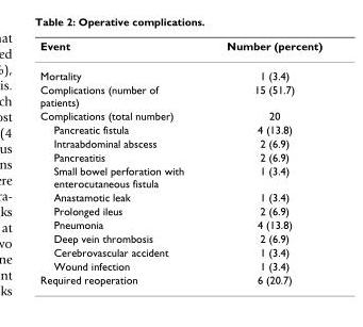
<table><thead><tr><td>Event</td><td>Number (percent)</td></tr></thead><tbody><tr><td>Mortality</td><td>1 (3.4)</td></tr><tr><td>Complications (number of patients)</td><td>15 (51.7)</td></tr><tr><td>Complications (total number)</td><td>20</td></tr><tr><td>Pancreatic fistula</td><td>4 (13.8)</td></tr><tr><td>Intraabdominal abscess</td><td>2 (6.9)</td></tr><tr><td>Pancreatitis</td><td>2 (6.9)</td></tr><tr><td>Small bowel perforation with enterocutaneous fistula</td><td>1 (3.4)</td></tr><tr><td>Anastamotic leak</td><td>1 (3.4)</td></tr><tr><td>Prolonged ileus</td><td>2 (6.9)</td></tr><tr><td>Pneumonia</td><td>4 (13.8)</td></tr><tr><td>Deep vein thrombosis</td><td>2 (6.9)</td></tr><tr><td>Cerebrovascular accident</td><td>1 (3.4)</td></tr><tr><td>Wound infection</td><td>1 (3.4)</td></tr><tr><td>Required reoperation</td><td>6 (20.7)</td></tr></tbody></table>